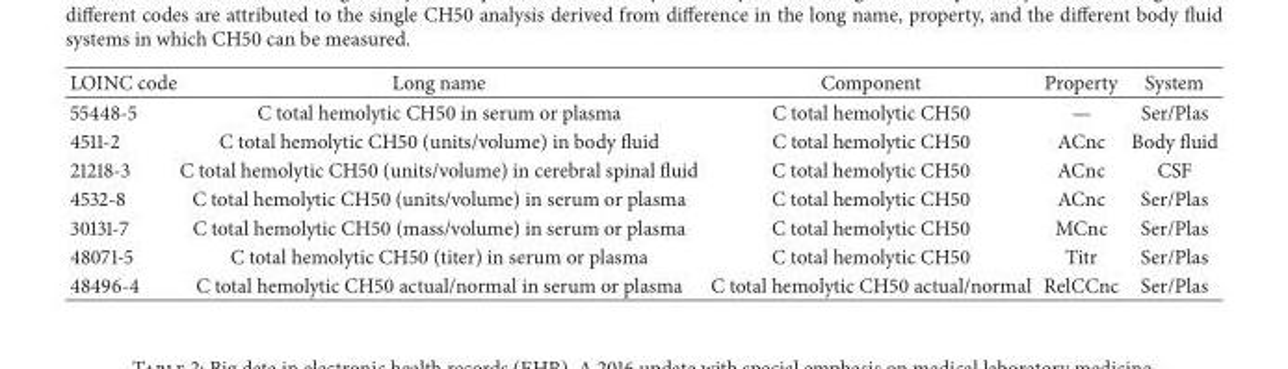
<table><thead><tr><td>LOINC code</td><td>Long name</td><td>Component</td><td>Property</td><td>System</td></tr></thead><tbody><tr><td>55448-5</td><td>C total hemolytic CH50 in serum or plasma</td><td>C total hemolytic CH50</td><td>—</td><td>Ser/Plas</td></tr><tr><td>4511-2</td><td>C total hemolytic CH50 (units/volume) in body fluid</td><td>C total hemolytic CH50</td><td>ACnc</td><td>Body fluid</td></tr><tr><td>21218-3</td><td>C total hemolytic CH50 (units/volume) in cerebral spinal fluid</td><td>C total hemolytic CH50</td><td>ACnc</td><td>CSF</td></tr><tr><td>4532-8</td><td>C total hemolytic CH50 (units/volume) in serum or plasma</td><td>C total hemolytic CH50</td><td>ACnc</td><td>Ser/Plas</td></tr><tr><td>30131-7</td><td>C total hemolytic CH50 (mass/volume) in serum or plasma</td><td>C total hemolytic CH50</td><td>MCnc</td><td>Ser/Plas</td></tr><tr><td>48071-5</td><td>C total hemolytic CH50 (titer) in serum or plasma</td><td>C total hemolytic CH50</td><td>Titr</td><td>Ser/Plas</td></tr><tr><td>48496-4</td><td>C total hemolytic CH50 actual/normal in serum or plasma</td><td>C total hemolytic CH50 actual/normal</td><td>RelCCnc</td><td>Ser/Plas</td></tr></tbody></table>